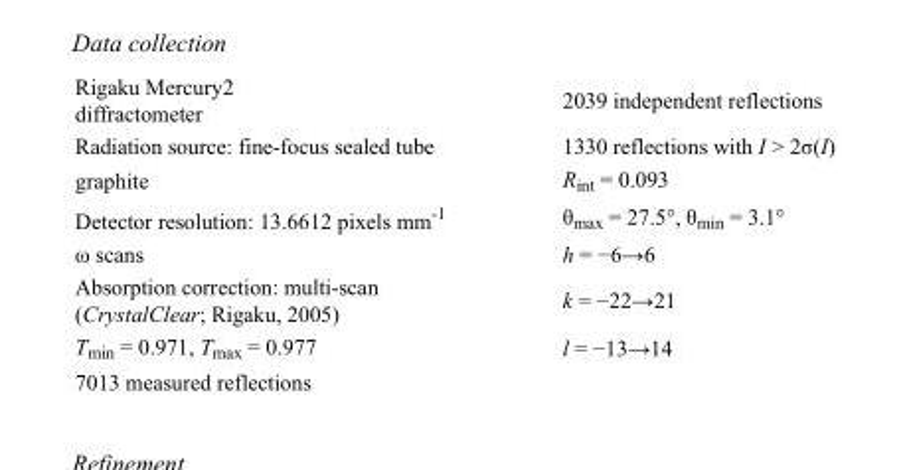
<table><tbody><tr><td>Rigaku Mercury2 diffractometer</td><td>2039 independent reflections</td></tr><tr><td>Radiation source: fine-focus sealed tube</td><td>1330 reflections with I &gt; 2σ(I)</td></tr><tr><td>graphite</td><td>R<sub>int</sub> = 0.093</td></tr><tr><td>Detector resolution: 13.6612 pixels mm<sup>-1</sup></td><td>θ<sub>max</sub> = 27.5°, θ<sub>min</sub> = 3.1°</td></tr><tr><td>ω scans</td><td>h = −6→6</td></tr><tr><td>Absorption correction: multi-scan (CrystalClear; Rigaku, 2005)</td><td>k = −22→21</td></tr><tr><td>T<sub>min</sub> = 0.971, T<sub>max</sub> = 0.977</td><td>l = −13→14</td></tr><tr><td>7013 measured reflections</td><td></td></tr></tbody></table>